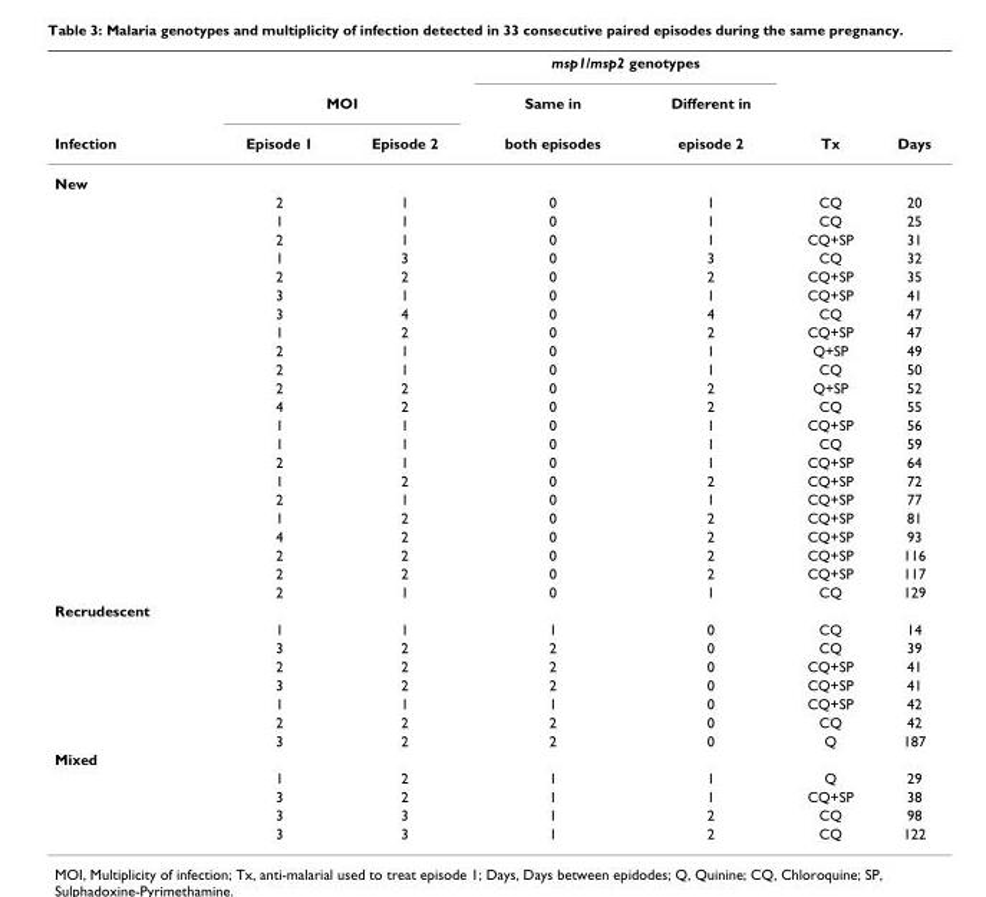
<table><thead><tr><td rowspan="3">Infection</td><td></td><td></td><td colspan="2">msp1/msp2 genotypes</td><td rowspan="3">Tx</td><td rowspan="3">Days</td></tr><tr><td colspan="2">MOI</td><td rowspan="2">Same in both episodes</td><td rowspan="2">Different in episode 2</td></tr><tr><td>Episode 1</td><td>Episode 2</td></tr></thead><tbody><tr><td colspan="7">New</td></tr><tr><td></td><td>2</td><td>1</td><td>0</td><td>1</td><td>CQ</td><td>20</td></tr><tr><td></td><td>1</td><td>1</td><td>0</td><td>1</td><td>CQ</td><td>25</td></tr><tr><td></td><td>2</td><td>1</td><td>0</td><td>1</td><td>CQ+SP</td><td>31</td></tr><tr><td></td><td>1</td><td>3</td><td>0</td><td>3</td><td>CQ</td><td>32</td></tr><tr><td></td><td>2</td><td>2</td><td>0</td><td>2</td><td>CQ+SP</td><td>35</td></tr><tr><td></td><td>3</td><td>1</td><td>0</td><td>1</td><td>CQ+SP</td><td>41</td></tr><tr><td></td><td>3</td><td>4</td><td>0</td><td>4</td><td>CQ</td><td>47</td></tr><tr><td></td><td>1</td><td>2</td><td>0</td><td>2</td><td>CQ+SP</td><td>47</td></tr><tr><td></td><td>2</td><td>1</td><td>0</td><td>1</td><td>Q+SP</td><td>49</td></tr><tr><td></td><td>2</td><td>1</td><td>0</td><td>1</td><td>CQ</td><td>50</td></tr><tr><td></td><td>2</td><td>2</td><td>0</td><td>2</td><td>Q+SP</td><td>52</td></tr><tr><td></td><td>4</td><td>2</td><td>0</td><td>2</td><td>CQ</td><td>55</td></tr><tr><td></td><td>1</td><td>1</td><td>0</td><td>1</td><td>CQ+SP</td><td>56</td></tr><tr><td></td><td>1</td><td>1</td><td>0</td><td>1</td><td>CQ</td><td>59</td></tr><tr><td></td><td>2</td><td>1</td><td>0</td><td>1</td><td>CQ+SP</td><td>64</td></tr><tr><td></td><td>1</td><td>2</td><td>0</td><td>2</td><td>CQ+SP</td><td>72</td></tr><tr><td></td><td>2</td><td>1</td><td>0</td><td>1</td><td>CQ+SP</td><td>77</td></tr><tr><td></td><td>1</td><td>2</td><td>0</td><td>2</td><td>CQ+SP</td><td>81</td></tr><tr><td></td><td>4</td><td>2</td><td>0</td><td>2</td><td>CQ+SP</td><td>93</td></tr><tr><td></td><td>2</td><td>2</td><td>0</td><td>2</td><td>CQ+SP</td><td>116</td></tr><tr><td></td><td>2</td><td>2</td><td>0</td><td>2</td><td>CQ+SP</td><td>117</td></tr><tr><td></td><td>2</td><td>1</td><td>0</td><td>1</td><td>CQ</td><td>129</td></tr><tr><td colspan="7">Recrudescent</td></tr><tr><td></td><td>1</td><td>1</td><td>1</td><td>0</td><td>CQ</td><td>14</td></tr><tr><td></td><td>3</td><td>2</td><td>2</td><td>0</td><td>CQ</td><td>39</td></tr><tr><td></td><td>2</td><td>2</td><td>2</td><td>0</td><td>CQ+SP</td><td>41</td></tr><tr><td></td><td>3</td><td>2</td><td>2</td><td>0</td><td>CQ+SP</td><td>41</td></tr><tr><td></td><td>1</td><td>1</td><td>1</td><td>0</td><td>CQ+SP</td><td>42</td></tr><tr><td></td><td>2</td><td>2</td><td>2</td><td>0</td><td>CQ</td><td>42</td></tr><tr><td></td><td>3</td><td>2</td><td>2</td><td>0</td><td>Q</td><td>187</td></tr><tr><td colspan="7">Mixed</td></tr><tr><td></td><td>1</td><td>2</td><td>1</td><td>1</td><td>Q</td><td>29</td></tr><tr><td></td><td>3</td><td>2</td><td>1</td><td>1</td><td>CQ+SP</td><td>38</td></tr><tr><td></td><td>3</td><td>3</td><td>1</td><td>2</td><td>CQ</td><td>98</td></tr><tr><td></td><td>3</td><td>3</td><td>1</td><td>2</td><td>CQ</td><td>122</td></tr></tbody></table>